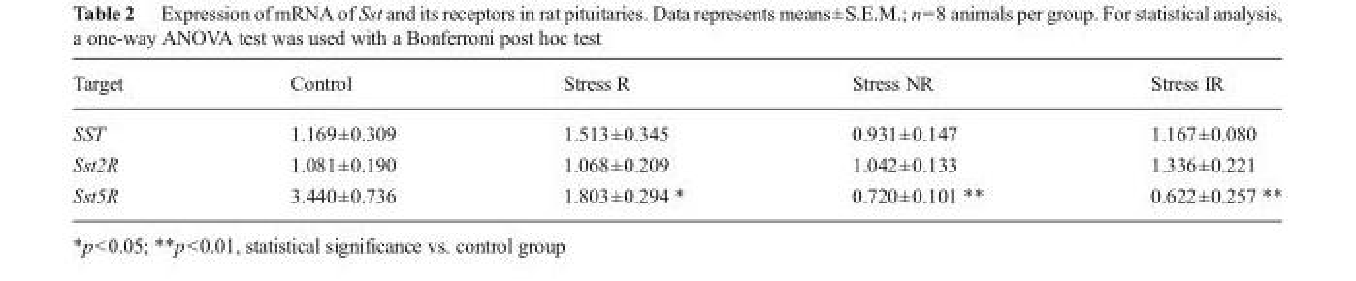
<table><thead><tr><td>Target</td><td>Control</td><td>Stress R</td><td>Stress NR</td><td>Stress IR</td></tr></thead><tbody><tr><td>SST</td><td>1.169±0.309</td><td>1.513±0.345</td><td>0.931±0.147</td><td>1.167±0.080</td></tr><tr><td>Sst2R</td><td>1.081±0.190</td><td>1.068±0.209</td><td>1.042±0.133</td><td>1.336±0.221</td></tr><tr><td>Sst5R</td><td>3.440±0.736</td><td>1.803±0.294 *</td><td>0.720±0.101 **</td><td>0.622±0.257 **</td></tr></tbody></table>